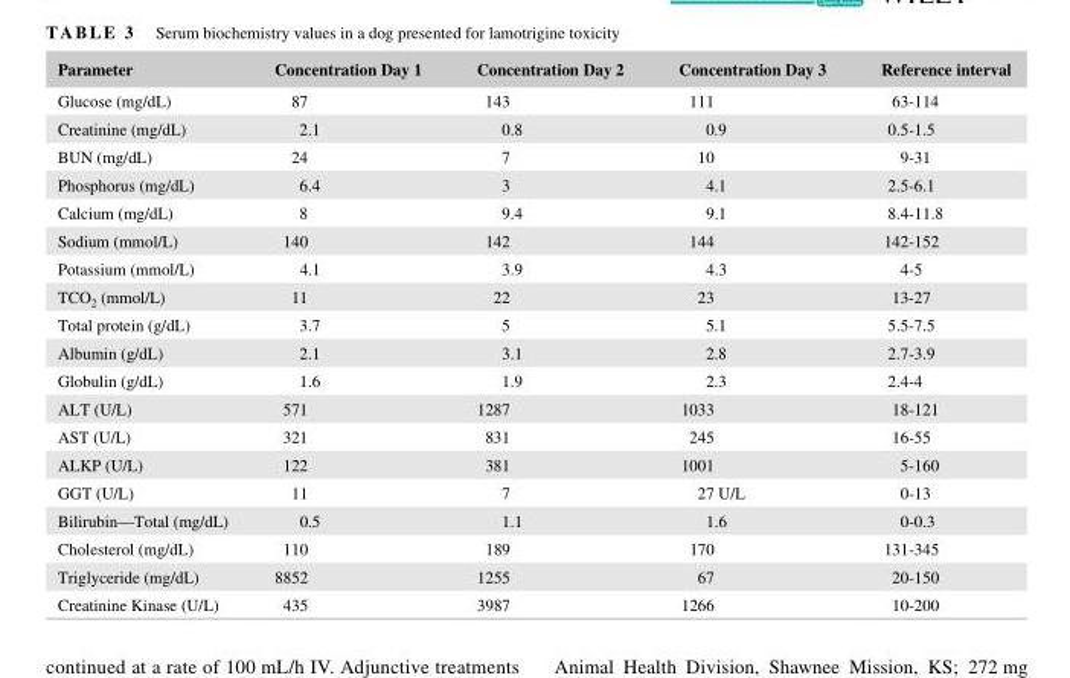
<table><thead><tr><td>Parameter</td><td>Concentration Day 1</td><td>Concentration Day 2</td><td>Concentration Day 3</td><td>Reference interval</td></tr></thead><tbody><tr><td>Glucose (mg/dL)</td><td>87</td><td>143</td><td>111</td><td>63- 114</td></tr><tr><td>Creatinine (mg/dL)</td><td>2.1</td><td>0.8</td><td>0.9</td><td>0.5- 1.5</td></tr><tr><td>BUN (mg/dL)</td><td>24</td><td>7</td><td>10</td><td>9- 31</td></tr><tr><td>Phosphorus (mg/dL)</td><td>6.4</td><td>3</td><td>4.1</td><td>2.5- 6.1</td></tr><tr><td>Calcium (mg/dL)</td><td>8</td><td>9.4</td><td>9.1</td><td>8.4- 11.8</td></tr><tr><td>Sodium (mmol/L)</td><td>140</td><td>142</td><td>144</td><td>142- 152</td></tr><tr><td>Potassium (mmol/L)</td><td>4.1</td><td>3.9</td><td>4.3</td><td>4- 5</td></tr><tr><td>TCO<sub>2</sub> (mmol/L)</td><td>11</td><td>22</td><td>23</td><td>13- 27</td></tr><tr><td>Total protein (g/dL)</td><td>3.7</td><td>5</td><td>5.1</td><td>5.5- 7.5</td></tr><tr><td>Albumin (g/dL)</td><td>2.1</td><td>3.1</td><td>2.8</td><td>2.7- 3.9</td></tr><tr><td>Globulin (g/dL)</td><td>1.6</td><td>1.9</td><td>2.3</td><td>2.4- 4</td></tr><tr><td>ALT (U/L)</td><td>571</td><td>1287</td><td>1033</td><td>18- 121</td></tr><tr><td>AST (U/L)</td><td>321</td><td>831</td><td>245</td><td>16- 55</td></tr><tr><td>ALKP (U/L)</td><td>122</td><td>381</td><td>1001</td><td>5- 160</td></tr><tr><td>GGT (U/L)</td><td>11</td><td>7</td><td>27 U/L</td><td>0- 13</td></tr><tr><td>Bilirubin—Total (mg/dL)</td><td>0.5</td><td>1.1</td><td>1.6</td><td>0- 0.3</td></tr><tr><td>Cholesterol (mg/dL)</td><td>110</td><td>189</td><td>170</td><td>131- 345</td></tr><tr><td>Triglyceride (mg/dL)</td><td>8852</td><td>1255</td><td>67</td><td>20- 150</td></tr><tr><td>Creatinine Kinase (U/L)</td><td>435</td><td>3987</td><td>1266</td><td>10- 200</td></tr></tbody></table>